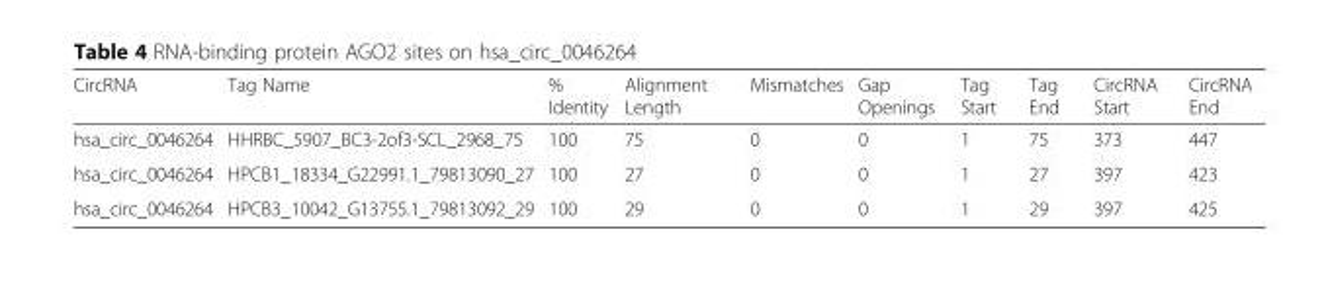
<table><thead><tr><td>CircRNA</td><td>Tag Name</td><td>% Identity</td><td>Alignment Length</td><td>Mismatches</td><td>Gap Openings</td><td>Tag Start</td><td>Tag End</td><td>CircRNA Start</td><td>CircRNA End</td></tr></thead><tbody><tr><td>hsa_circ_0046264</td><td>HHRBC_5907_BC3-2of3-SCL_2968_75</td><td>100</td><td>75</td><td>0</td><td>0</td><td>1</td><td>75</td><td>373</td><td>447</td></tr><tr><td>hsa_circ_0046264</td><td>HPCB1_18334_G22991.1_79813090_27</td><td>100</td><td>27</td><td>0</td><td>0</td><td>1</td><td>27</td><td>397</td><td>423</td></tr><tr><td>hsa_circ_0046264</td><td>HPCB3_10042_G13755.1_79813092_29</td><td>100</td><td>29</td><td>0</td><td>0</td><td>1</td><td>29</td><td>397</td><td>425</td></tr></tbody></table>